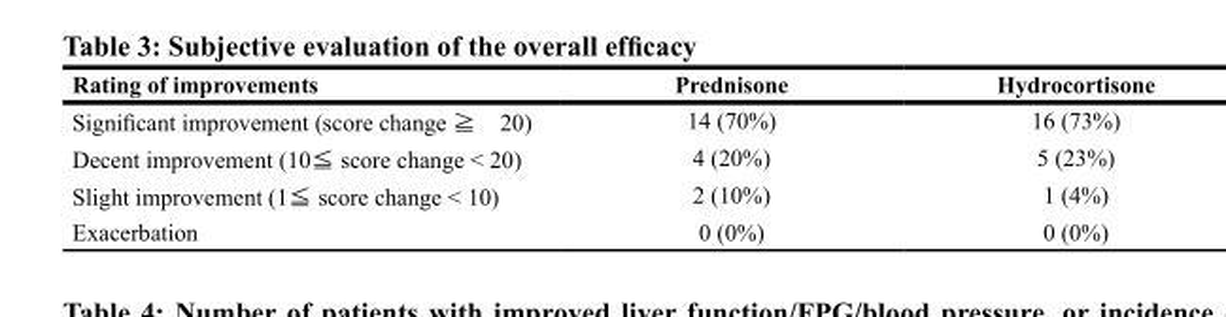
<table><thead><tr><td>Rating of improvements</td><td>Prednisone</td><td>Hydrocortisone</td></tr></thead><tbody><tr><td>Significant improvement (score change ≧ 20)</td><td>14 (70%)</td><td>16 (73%)</td></tr><tr><td>Decent improvement (10≦ score change &lt; 20)</td><td>4 (20%)</td><td>5 (23%)</td></tr><tr><td>Slight improvement (1≦ score change &lt; 10)</td><td>2 (10%)</td><td>1 (4%)</td></tr><tr><td>Exacerbation</td><td>0 (0%)</td><td>0 (0%)</td></tr></tbody></table>